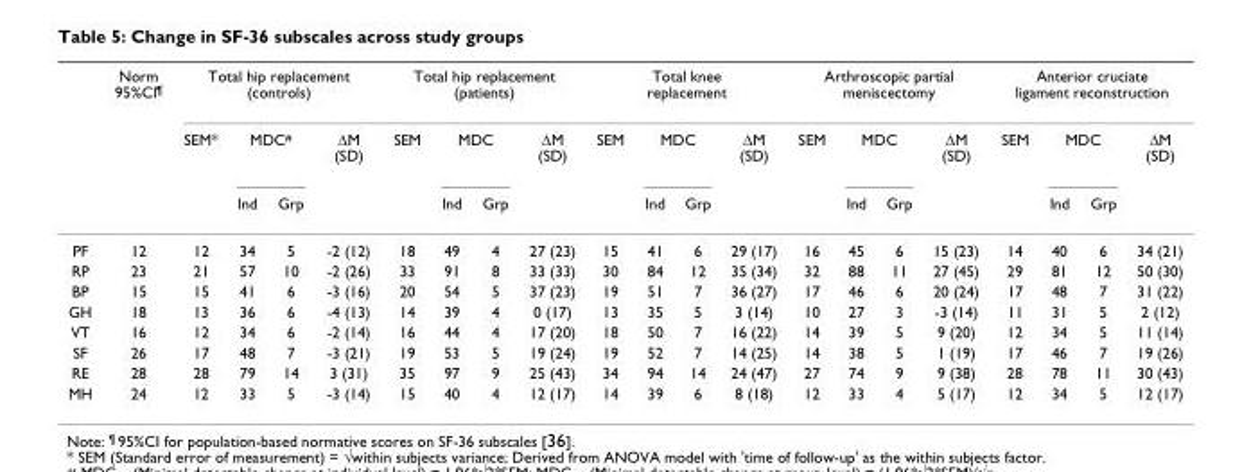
<table><thead><tr><td rowspan="3"></td><td rowspan="3">Norm 95%CI<sup>¶</sup></td><td colspan="4">Total hip replacement (controls)</td><td colspan="4">Total hip replacement (patients)</td><td colspan="4">Total knee replacement</td><td colspan="4">Arthroscopic partial meniscectomy</td><td colspan="4">Anterior cruciate ligament reconstruction</td></tr><tr><td rowspan="2">SEM*</td><td colspan="2">MDC<sup>#</sup></td><td rowspan="2">ΔM (SD)</td><td rowspan="2">SEM</td><td colspan="2">MDC</td><td rowspan="2">ΔM (SD)</td><td rowspan="2">SEM</td><td colspan="2">MDC</td><td rowspan="2">ΔM (SD)</td><td rowspan="2">SEM</td><td colspan="2">MDC</td><td rowspan="2">ΔM (SD)</td><td rowspan="2">SEM</td><td colspan="2">MDC</td><td rowspan="2">ΔM (SD)</td></tr><tr><td>Ind</td><td>Grp</td><td>Ind</td><td>Grp</td><td>Ind</td><td>Grp</td><td>Ind</td><td>Grp</td><td>Ind</td><td>Grp</td></tr></thead><tbody><tr><td>PF</td><td>12</td><td>12</td><td>34</td><td>5</td><td>-2 (12)</td><td>18</td><td>49</td><td>4</td><td>27 (23)</td><td>15</td><td>41</td><td>6</td><td>29 (17)</td><td>16</td><td>45</td><td>6</td><td>15 (23)</td><td>14</td><td>40</td><td>6</td><td>34 (21)</td></tr><tr><td>RP</td><td>23</td><td>21</td><td>57</td><td>10</td><td>-2 (26)</td><td>33</td><td>91</td><td>8</td><td>33 (33)</td><td>30</td><td>84</td><td>12</td><td>35 (34)</td><td>32</td><td>88</td><td>11</td><td>27 (45)</td><td>29</td><td>81</td><td>12</td><td>50 (30)</td></tr><tr><td>BP</td><td>15</td><td>15</td><td>41</td><td>6</td><td>-3 (16)</td><td>20</td><td>54</td><td>5</td><td>37 (23)</td><td>19</td><td>51</td><td>7</td><td>36 (27)</td><td>17</td><td>46</td><td>6</td><td>20 (24)</td><td>17</td><td>48</td><td>7</td><td>31 (22)</td></tr><tr><td>GH</td><td>18</td><td>13</td><td>36</td><td>6</td><td>-4 (13)</td><td>14</td><td>39</td><td>4</td><td>0 (17)</td><td>13</td><td>35</td><td>5</td><td>3 (14)</td><td>10</td><td>27</td><td>3</td><td>-3 (14)</td><td>11</td><td>31</td><td>5</td><td>2 (12)</td></tr><tr><td>VT</td><td>16</td><td>12</td><td>34</td><td>6</td><td>-2 (14)</td><td>16</td><td>44</td><td>4</td><td>17 (20)</td><td>18</td><td>50</td><td>7</td><td>16 (22)</td><td>14</td><td>39</td><td>5</td><td>9 (20)</td><td>12</td><td>34</td><td>5</td><td>11 (14)</td></tr><tr><td>SF</td><td>26</td><td>17</td><td>48</td><td>7</td><td>-3 (21)</td><td>19</td><td>53</td><td>5</td><td>19 (24)</td><td>19</td><td>52</td><td>7</td><td>14 (25)</td><td>14</td><td>38</td><td>5</td><td>1 (19)</td><td>17</td><td>46</td><td>7</td><td>19 (26)</td></tr><tr><td>RE</td><td>28</td><td>28</td><td>79</td><td>14</td><td>3 (31)</td><td>35</td><td>97</td><td>9</td><td>25 (43)</td><td>34</td><td>94</td><td>14</td><td>24 (47)</td><td>27</td><td>74</td><td>9</td><td>9 (38)</td><td>28</td><td>78</td><td>11</td><td>30 (43)</td></tr><tr><td>MH</td><td>24</td><td>12</td><td>33</td><td>5</td><td>-3 (14)</td><td>15</td><td>40</td><td>4</td><td>12 (17)</td><td>14</td><td>39</td><td>6</td><td>8 (18)</td><td>12</td><td>33</td><td>4</td><td>5 (17)</td><td>12</td><td>34</td><td>5</td><td>12 (17)</td></tr></tbody></table>